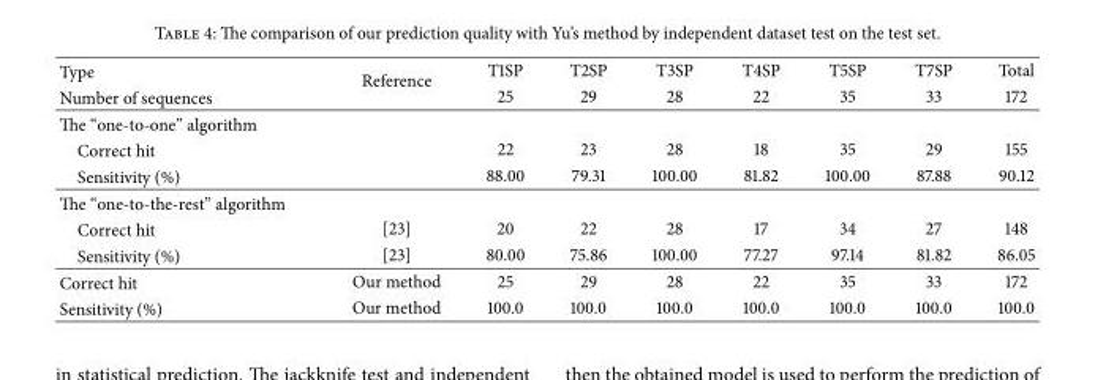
<table><thead><tr><td rowspan="2">Type Number of sequences</td><td rowspan="2">Reference</td><td rowspan="2">T1SP 25</td><td rowspan="2">T2SP 29</td><td rowspan="2">T3SP 28</td><td rowspan="2">T4SP 22</td><td rowspan="2">T5SP 35</td><td rowspan="2">T7SP 33</td><td rowspan="2">Total 172</td></tr><tr></tr></thead><tbody><tr><td colspan="9">The “one-to-one” algorithm</td></tr><tr><td>Correct hit</td><td></td><td>22</td><td>23</td><td>28</td><td>18</td><td>35</td><td>29</td><td>155</td></tr><tr><td>Sensitivity (%)</td><td></td><td>88.00</td><td>79.31</td><td>100.00</td><td>81.82</td><td>100.00</td><td>87.88</td><td>90.12</td></tr><tr><td colspan="9">The “one-to-the-rest” algorithm</td></tr><tr><td>Correct hit</td><td>[23]</td><td>20</td><td>22</td><td>28</td><td>17</td><td>34</td><td>27</td><td>148</td></tr><tr><td>Sensitivity (%)</td><td>[23]</td><td>80.00</td><td>75.86</td><td>100.00</td><td>77.27</td><td>97.14</td><td>81.82</td><td>86.05</td></tr><tr><td>Correct hit</td><td>Our method</td><td>25</td><td>29</td><td>28</td><td>22</td><td>35</td><td>33</td><td>172</td></tr><tr><td>Sensitivity (%)</td><td>Our method</td><td>100.0</td><td>100.0</td><td>100.0</td><td>100.0</td><td>100.0</td><td>100.0</td><td>100.0</td></tr></tbody></table>